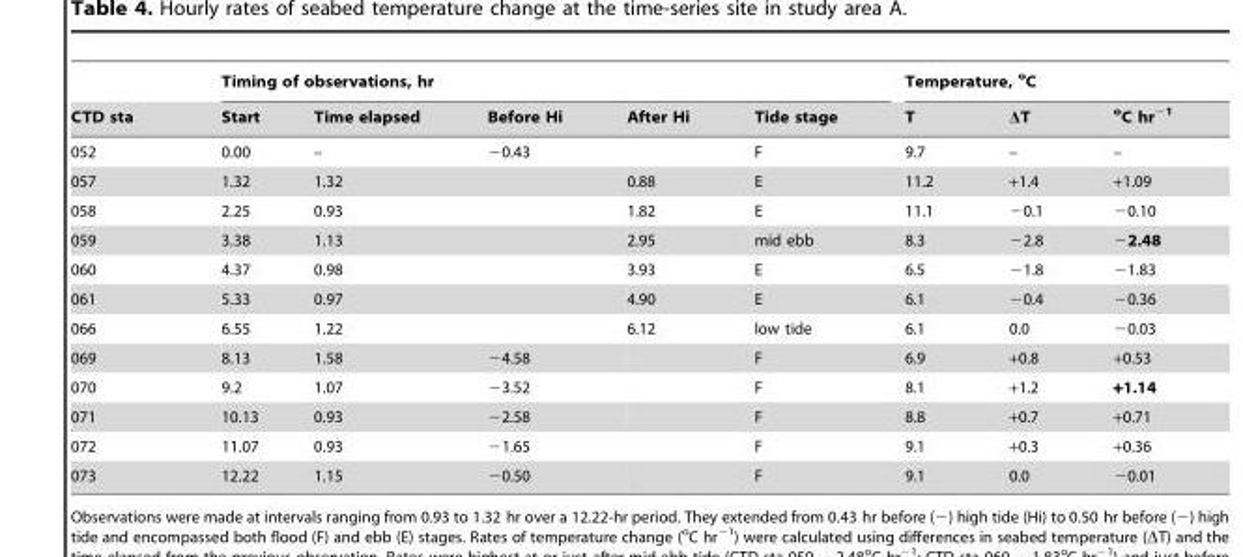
<table><thead><tr><td rowspan="2">CTD sta</td><td colspan="5">Timing of observations, hr</td><td colspan="3">Temperature, <sup>o</sup>C</td></tr><tr><td>Start</td><td>Time elapsed</td><td>Before Hi</td><td>After Hi</td><td>Tide stage</td><td>T</td><td>ΔT</td><td><sup>o</sup>C hr<sup>−1</sup></td></tr></thead><tbody><tr><td>052</td><td>0.00</td><td>–</td><td>−0.43</td><td></td><td>F</td><td>9.7</td><td>–</td><td>–</td></tr><tr><td>057</td><td>1.32</td><td>1.32</td><td></td><td>0.88</td><td>E</td><td>11.2</td><td>+1.4</td><td>+1.09</td></tr><tr><td>058</td><td>2.25</td><td>0.93</td><td></td><td>1.82</td><td>E</td><td>11.1</td><td>−0.1</td><td>−0.10</td></tr><tr><td>059</td><td>3.38</td><td>1.13</td><td></td><td>2.95</td><td>mid ebb</td><td>8.3</td><td>−2.8</td><td>−2.48</td></tr><tr><td>060</td><td>4.37</td><td>0.98</td><td></td><td>3.93</td><td>E</td><td>6.5</td><td>−1.8</td><td>−1.83</td></tr><tr><td>061</td><td>5.33</td><td>0.97</td><td></td><td>4.90</td><td>E</td><td>6.1</td><td>−0.4</td><td>−0.36</td></tr><tr><td>066</td><td>6.55</td><td>1.22</td><td></td><td>6.12</td><td>low tide</td><td>6.1</td><td>0.0</td><td>−0.03</td></tr><tr><td>069</td><td>8.13</td><td>1.58</td><td>−4.58</td><td></td><td>F</td><td>6.9</td><td>+0.8</td><td>+0.53</td></tr><tr><td>070</td><td>9.2</td><td>1.07</td><td>−3.52</td><td></td><td>F</td><td>8.1</td><td>+1.2</td><td>+1.14</td></tr><tr><td>071</td><td>10.13</td><td>0.93</td><td>−2.58</td><td></td><td>F</td><td>8.8</td><td>+0.7</td><td>+0.71</td></tr><tr><td>072</td><td>11.07</td><td>0.93</td><td>−1.65</td><td></td><td>F</td><td>9.1</td><td>+0.3</td><td>+0.36</td></tr><tr><td>073</td><td>12.22</td><td>1.15</td><td>−0.50</td><td></td><td>F</td><td>9.1</td><td>0.0</td><td>−0.01</td></tr></tbody></table>